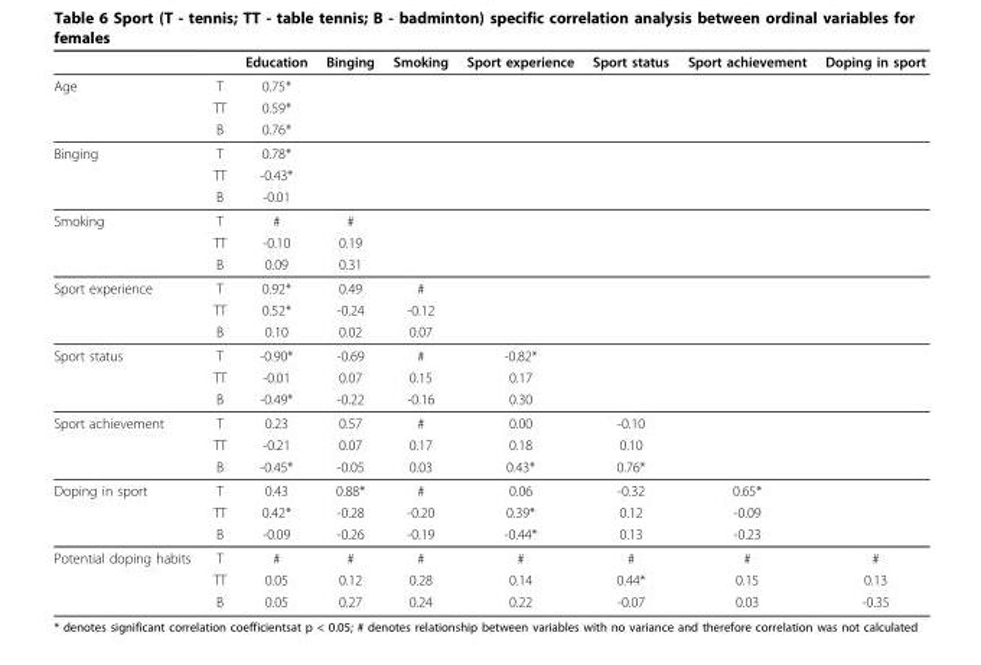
<table><thead><tr><td></td><td></td><td>Education</td><td>Binging</td><td>Smoking</td><td>Sport experience</td><td>Sport status</td><td>Sport achievement</td><td>Doping in sport</td></tr></thead><tbody><tr><td rowspan="3">Age</td><td>T</td><td>0.75*</td><td></td><td></td><td></td><td></td><td></td><td></td></tr><tr><td>TT</td><td>0.59*</td><td></td><td></td><td></td><td></td><td></td><td></td></tr><tr><td>B</td><td>0.76*</td><td></td><td></td><td></td><td></td><td></td><td></td></tr><tr><td rowspan="3">Binging</td><td>T</td><td>0.78*</td><td></td><td></td><td></td><td></td><td></td><td></td></tr><tr><td>TT</td><td>-0.43*</td><td></td><td></td><td></td><td></td><td></td><td></td></tr><tr><td>B</td><td>-0.01</td><td></td><td></td><td></td><td></td><td></td><td></td></tr><tr><td rowspan="3">Smoking</td><td>T</td><td>#</td><td>#</td><td></td><td></td><td></td><td></td><td></td></tr><tr><td>TT</td><td>-0.10</td><td>0.19</td><td></td><td></td><td></td><td></td><td></td></tr><tr><td>B</td><td>0.09</td><td>0.31</td><td></td><td></td><td></td><td></td><td></td></tr><tr><td rowspan="3">Sport experience</td><td>T</td><td>0.92*</td><td>0.49</td><td>#</td><td></td><td></td><td></td><td></td></tr><tr><td>TT</td><td>0.52*</td><td>-0.24</td><td>-0.12</td><td></td><td></td><td></td><td></td></tr><tr><td>B</td><td>0.10</td><td>0.02</td><td>0.07</td><td></td><td></td><td></td><td></td></tr><tr><td rowspan="3">Sport status</td><td>T</td><td>-0.90*</td><td>-0.69</td><td>#</td><td>-0.82*</td><td></td><td></td><td></td></tr><tr><td>TT</td><td>-0.01</td><td>0.07</td><td>0.15</td><td>0.17</td><td></td><td></td><td></td></tr><tr><td>B</td><td>-0.49*</td><td>-0.22</td><td>-0.16</td><td>0.30</td><td></td><td></td><td></td></tr><tr><td rowspan="3">Sport achievement</td><td>T</td><td>0.23</td><td>0.57</td><td>#</td><td>0.00</td><td>-0.10</td><td></td><td></td></tr><tr><td>TT</td><td>-0.21</td><td>0.07</td><td>0.17</td><td>0.18</td><td>0.10</td><td></td><td></td></tr><tr><td>B</td><td>-0.45*</td><td>-0.05</td><td>0.03</td><td>0.43*</td><td>0.76*</td><td></td><td></td></tr><tr><td rowspan="3">Doping in sport</td><td>T</td><td>0.43</td><td>0.88*</td><td>#</td><td>0.06</td><td>-0.32</td><td>0.65*</td><td></td></tr><tr><td>TT</td><td>0.42*</td><td>-0.28</td><td>-0.20</td><td>0.39*</td><td>0.12</td><td>-0.09</td><td></td></tr><tr><td>B</td><td>-0.09</td><td>-0.26</td><td>-0.19</td><td>-0.44*</td><td>0.13</td><td>-0.23</td><td></td></tr><tr><td rowspan="3">Potential doping habits</td><td>T</td><td>#</td><td>#</td><td>#</td><td>#</td><td>#</td><td>#</td><td>#</td></tr><tr><td>TT</td><td>0.05</td><td>0.12</td><td>0.28</td><td>0.14</td><td>0.44*</td><td>0.15</td><td>0.13</td></tr><tr><td>B</td><td>0.05</td><td>0.27</td><td>0.24</td><td>0.22</td><td>-0.07</td><td>0.03</td><td>-0.35</td></tr></tbody></table>